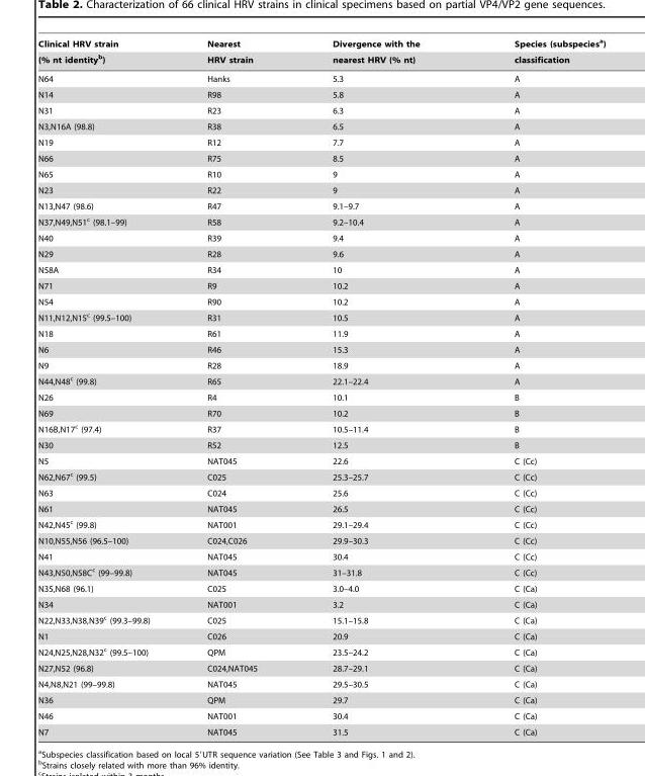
<table><thead><tr><td rowspan="2">Clinical HRV strain (% nt identity<sup>b</sup>)</td><td rowspan="2">Nearest HRV strain</td><td rowspan="2">Divergence with the nearest HRV (% nt)</td><td rowspan="2">Species (subspecies<sup>a</sup>) classification</td></tr><tr></tr></thead><tbody><tr><td>N64</td><td>Hanks</td><td>5.3</td><td>A</td></tr><tr><td>N14</td><td>R98</td><td>5.8</td><td>A</td></tr><tr><td>N31</td><td>R23</td><td>6.3</td><td>A</td></tr><tr><td>N3,N16A (98.8)</td><td>R38</td><td>6.5</td><td>A</td></tr><tr><td>N19</td><td>R12</td><td>7.7</td><td>A</td></tr><tr><td>N66</td><td>R75</td><td>8.5</td><td>A</td></tr><tr><td>N65</td><td>R10</td><td>9</td><td>A</td></tr><tr><td>N23</td><td>R22</td><td>9</td><td>A</td></tr><tr><td>N13,N47 (98.6)</td><td>R47</td><td>9.1–9.7</td><td>A</td></tr><tr><td>N37,N49,N51<sup>c</sup> (98.1–99)</td><td>R58</td><td>9.2–10.4</td><td>A</td></tr><tr><td>N40</td><td>R39</td><td>9.4</td><td>A</td></tr><tr><td>N29</td><td>R28</td><td>9.6</td><td>A</td></tr><tr><td>N58A</td><td>R34</td><td>10</td><td>A</td></tr><tr><td>N71</td><td>R9</td><td>10.2</td><td>A</td></tr><tr><td>N54</td><td>R90</td><td>10.2</td><td>A</td></tr><tr><td>N11,N12,N15<sup>c</sup> (99.5–100)</td><td>R31</td><td>10.5</td><td>A</td></tr><tr><td>N18</td><td>R61</td><td>11.9</td><td>A</td></tr><tr><td>N6</td><td>R46</td><td>15.3</td><td>A</td></tr><tr><td>N9</td><td>R28</td><td>18.9</td><td>A</td></tr><tr><td>N44,N48<sup>c</sup> (99.8)</td><td>R65</td><td>22.1–22.4</td><td>A</td></tr><tr><td>N26</td><td>R4</td><td>10.1</td><td>B</td></tr><tr><td>N69</td><td>R70</td><td>10.2</td><td>B</td></tr><tr><td>N16B,N17<sup>c</sup> (97.4)</td><td>R37</td><td>10.5–11.4</td><td>B</td></tr><tr><td>N30</td><td>R52</td><td>12.5</td><td>B</td></tr><tr><td>N5</td><td>NAT045</td><td>22.6</td><td>C (Cc)</td></tr><tr><td>N62,N67<sup>c</sup> (99.5)</td><td>C025</td><td>25.3–25.7</td><td>C (Cc)</td></tr><tr><td>N63</td><td>C024</td><td>25.6</td><td>C (Cc)</td></tr><tr><td>N61</td><td>NAT045</td><td>26.5</td><td>C (Cc)</td></tr><tr><td>N42,N45<sup>c</sup> (99.8)</td><td>NAT001</td><td>29.1–29.4</td><td>C (Cc)</td></tr><tr><td>N10,N55,N56 (96.5–100)</td><td>C024,C026</td><td>29.9–30.3</td><td>C (Cc)</td></tr><tr><td>N41</td><td>NAT045</td><td>30.4</td><td>C (Cc)</td></tr><tr><td>N43,N50,N58C<sup>c</sup> (99–99.8)</td><td>NAT045</td><td>31–31.8</td><td>C (Cc)</td></tr><tr><td>N35,N68 (96.1)</td><td>C025</td><td>3.0–4.0</td><td>C (Ca)</td></tr><tr><td>N34</td><td>NAT001</td><td>3.2</td><td>C (Ca)</td></tr><tr><td>N22,N33,N38,N39<sup>c</sup> (99.3–99.8)</td><td>C025</td><td>15.1–15.8</td><td>C (Ca)</td></tr><tr><td>N1</td><td>C026</td><td>20.9</td><td>C (Ca)</td></tr><tr><td>N24,N25,N28,N32<sup>c</sup> (99.5–100)</td><td>QPM</td><td>23.5–24.2</td><td>C (Ca)</td></tr><tr><td>N27,N52 (96.8)</td><td>C024,NAT045</td><td>28.7–29.1</td><td>C (Ca)</td></tr><tr><td>N4,N8,N21 (99–99.8)</td><td>NAT045</td><td>29.5–30.5</td><td>C (Ca)</td></tr><tr><td>N36</td><td>QPM</td><td>29.7</td><td>C (Ca)</td></tr><tr><td>N46</td><td>NAT001</td><td>30.4</td><td>C (Ca)</td></tr><tr><td>N7</td><td>NAT045</td><td>31.5</td><td>C (Ca)</td></tr></tbody></table>